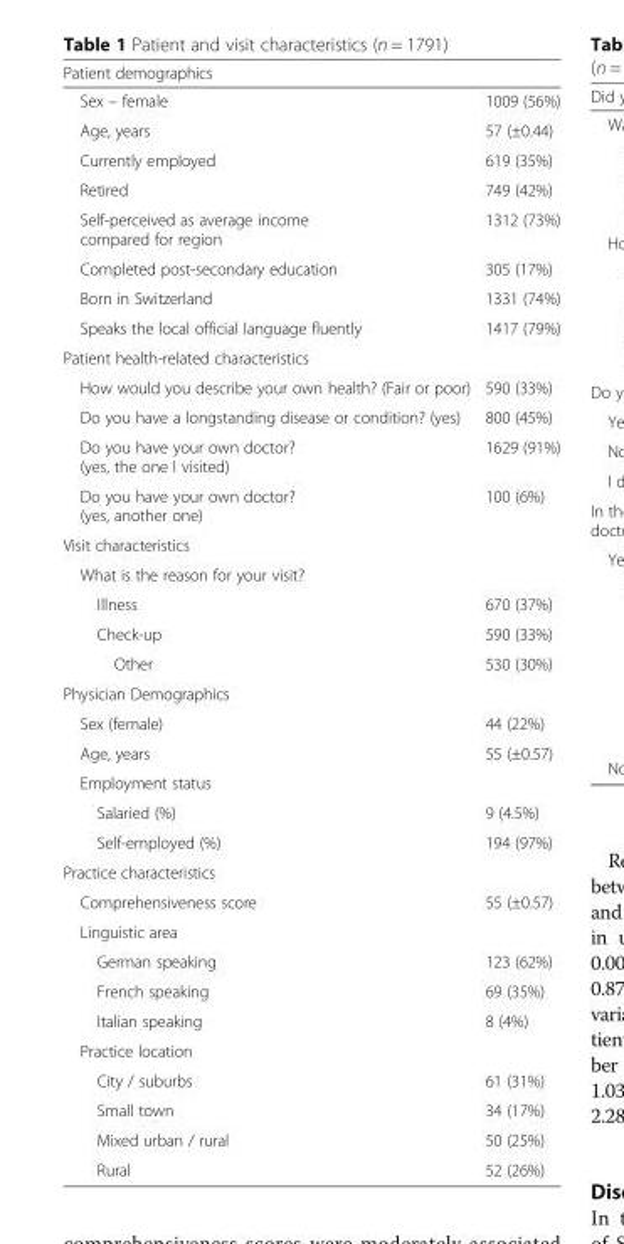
<table><thead><tr><td colspan="2">Patient demographics</td></tr><tr><td>Sex – female</td><td>1009 (56%)</td></tr></thead><tbody><tr><td>Age, years</td><td>57 (±0.44)</td></tr><tr><td>Currently employed</td><td>619 (35%)</td></tr><tr><td>Retired</td><td>749 (42%)</td></tr><tr><td>Self-perceived as average income compared for region</td><td>1312 (73%)</td></tr><tr><td>Completed post-secondary education</td><td>305 (17%)</td></tr><tr><td>Born in Switzerland</td><td>1331 (74%)</td></tr><tr><td>Speaks the local official language fluently</td><td>1417 (79%)</td></tr><tr><td colspan="2">Patient health-related characteristics</td></tr><tr><td>How would you describe your own health? (Fair or poor)</td><td>590 (33%)</td></tr><tr><td>Do you have a longstanding disease or condition? (yes)</td><td>800 (45%)</td></tr><tr><td>Do you have your own doctor? (yes, the one I visited)</td><td>1629 (91%)</td></tr><tr><td>Do you have your own doctor? (yes, another one)</td><td>100 (6%)</td></tr><tr><td colspan="2">Visit characteristics</td></tr><tr><td colspan="2">What is the reason for your visit?</td></tr><tr><td>Illness</td><td>670 (37%)</td></tr><tr><td>Check-up</td><td>590 (33%)</td></tr><tr><td>Other</td><td>530 (30%)</td></tr><tr><td colspan="2">Physician Demographics</td></tr><tr><td>Sex (female)</td><td>44 (22%)</td></tr><tr><td>Age, years</td><td>55 (±0.57)</td></tr><tr><td colspan="2">Employment status</td></tr><tr><td>Salaried (%)</td><td>9 (4.5%)</td></tr><tr><td>Self-employed (%)</td><td>194 (97%)</td></tr><tr><td colspan="2">Practice characteristics</td></tr><tr><td>Comprehensiveness score</td><td>55 (±0.57)</td></tr><tr><td colspan="2">Linguistic area</td></tr><tr><td>German speaking</td><td>123 (62%)</td></tr><tr><td>French speaking</td><td>69 (35%)</td></tr><tr><td>Italian speaking</td><td>8 (4%)</td></tr><tr><td colspan="2">Practice location</td></tr><tr><td>City / suburbs</td><td>61 (31%)</td></tr><tr><td>Small town</td><td>34 (17%)</td></tr><tr><td>Mixed urban / rural</td><td>50 (25%)</td></tr><tr><td>Rural</td><td>52 (26%)</td></tr></tbody></table>